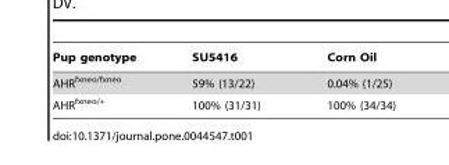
<table><thead><tr><td>Pup genotype</td><td>SU5416</td><td>Corn Oil</td></tr></thead><tbody><tr><td>AHR<sup>fxneo/fxneo</sup></td><td>59% (13/22)</td><td>0.04% (1/25)</td></tr><tr><td>AHR<sup>fxneo/+</sup></td><td>100% (31/31)</td><td>100% (34/34)</td></tr></tbody></table>